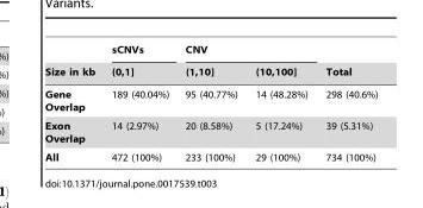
<table><thead><tr><td rowspan="2">Size in kb</td><td rowspan="2">sCNVs (0,1]</td><td colspan="2">CNV</td><td rowspan="2">Total</td></tr><tr><td>(1,10]</td><td>(10,100]</td></tr></thead><tbody><tr><td>Gene Overlap</td><td>189 (40.04%)</td><td>95 (40.77%)</td><td>14 (48.28%)</td><td>298 (40.6%)</td></tr><tr><td>Exon Overlap</td><td>14 (2.97%)</td><td>20 (8.58%)</td><td>5 (17.24%)</td><td>39 (5.31%)</td></tr><tr><td>All</td><td>472 (100%)</td><td>233 (100%)</td><td>29 (100%)</td><td>734 (100%)</td></tr></tbody></table>